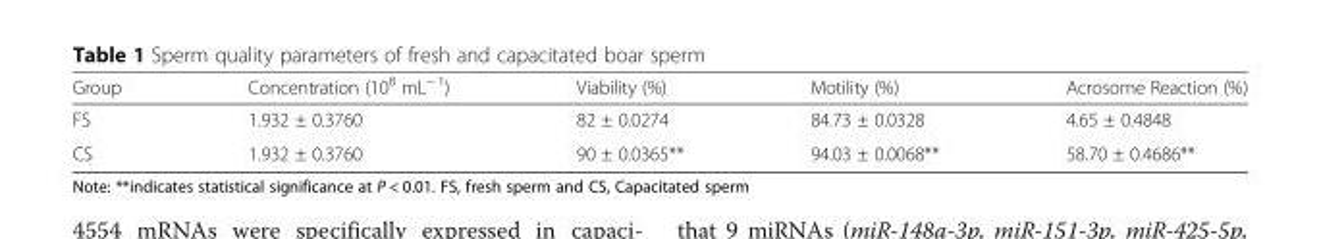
<table><thead><tr><td>Group</td><td>Concentration (10<sup>8</sup> mL<sup>− 1</sup>)</td><td>Viability (%)</td><td>Motility (%)</td><td>Acrosome Reaction (%)</td></tr></thead><tbody><tr><td>FS</td><td>1.932 ± 0.3760</td><td>82 ± 0.0274</td><td>84.73 ± 0.0328</td><td>4.65 ± 0.4848</td></tr><tr><td>CS</td><td>1.932 ± 0.3760</td><td>90 ± 0.0365**</td><td>94.03 ± 0.0068**</td><td>58.70 ± 0.4686**</td></tr></tbody></table>